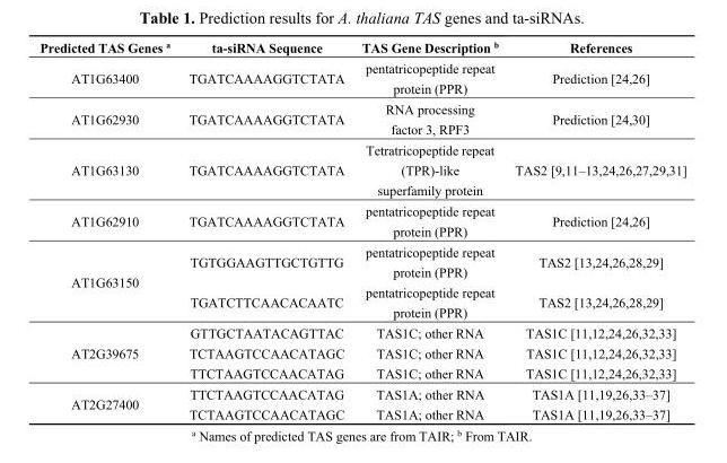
<table><thead><tr><td>Predicted TAS Genes <sup>a</sup></td><td>ta-siRNA Sequence</td><td>TAS Gene Description <sup>b</sup></td><td>References</td></tr></thead><tbody><tr><td>AT1G63400</td><td>TGATCAAAAGGTCTATA</td><td>pentatricopeptide repeat protein (PPR)</td><td>Prediction [24,26]</td></tr><tr><td>AT1G62930</td><td>TGATCAAAAGGTCTATA</td><td>RNA processing factor 3, RPF3</td><td>Prediction [24,30]</td></tr><tr><td>AT1G63130</td><td>TGATCAAAAGGTCTATA</td><td>Tetratricopeptide repeat (TPR)-like superfamily protein</td><td>TAS2 [9,11–13,24,26,27,29,31]</td></tr><tr><td>AT1G62910</td><td>TGATCAAAAGGTCTATA</td><td>pentatricopeptide repeat protein (PPR)</td><td>Prediction [24,26]</td></tr><tr><td rowspan="2">AT1G63150</td><td>TGTGGAAGTTGCTGTTG</td><td>pentatricopeptide repeat protein (PPR)</td><td>TAS2 [13,24,26,28,29]</td></tr><tr><td>TGATCTTCAACACAATC</td><td>pentatricopeptide repeat protein (PPR)</td><td>TAS2 [13,24,26,28,29]</td></tr><tr><td rowspan="3">AT2G39675</td><td>GTTGCTAATACAGTTAC</td><td>TAS1C; other RNA</td><td>TAS1C [11,12,24,26,32,33]</td></tr><tr><td>TCTAAGTCCAACATAGC</td><td>TAS1C; other RNA</td><td>TAS1C [11,12,24,26,32,33]</td></tr><tr><td>TTCTAAGTCCAACATAG</td><td>TAS1C; other RNA</td><td>TAS1C [11,12,24,26,32,33]</td></tr><tr><td rowspan="2">AT2G27400</td><td>TTCTAAGTCCAACATAG</td><td>TAS1A; other RNA</td><td>TAS1A [11,19,26,33–37]</td></tr><tr><td>TCTAAGTCCAACATAGC</td><td>TAS1A; other RNA</td><td>TAS1A [11,19,26,33–37]</td></tr></tbody></table>